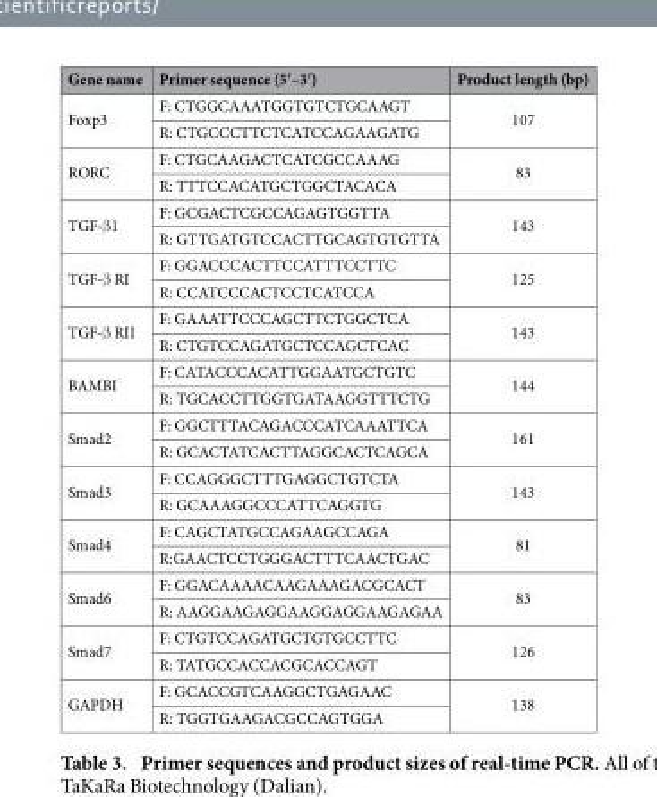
<table><thead><tr><td>Gene name</td><td>Primer sequence (5′ –3′ )</td><td>Product length (bp)</td></tr></thead><tbody><tr><td rowspan="2">Foxp3</td><td>F: CTGGCAAATGGTGTCTGCAAGT</td><td rowspan="2">107</td></tr><tr><td>R: CTGCCCTTCTCATCCAGAAGATG</td></tr><tr><td rowspan="2">RORC</td><td>F: CTGCAAGACTCATCGCCAAAG</td><td rowspan="2">83</td></tr><tr><td>R: TTTCCACATGCTGGCTACACA</td></tr><tr><td rowspan="2">TGF-β 1</td><td>F: GCGACTCGCCAGAGTGGTTA</td><td rowspan="2">143</td></tr><tr><td>R: GTTGATGTCCACTTGCAGTGTGTTA</td></tr><tr><td rowspan="2">TGF-β RI</td><td>F: GGACCCACTTCCATTTCCTTC</td><td rowspan="2">125</td></tr><tr><td>R: CCATCCCACTCCTCATCCA</td></tr><tr><td rowspan="2">TGF-β RII</td><td>F: GAAATTCCCAGCTTCTGGCTCA</td><td rowspan="2">143</td></tr><tr><td>R: CTGTCCAGATGCTCCAGCTCAC</td></tr><tr><td rowspan="2">BAMBI</td><td>F: CATACCCACATTGGAATGCTGTC</td><td rowspan="2">144</td></tr><tr><td>R: TGCACCTTGGTGATAAGGTTTCTG</td></tr><tr><td rowspan="2">Smad2</td><td>F: GGCTTTACAGACCCATCAAATTCA</td><td rowspan="2">161</td></tr><tr><td>R: GCACTATCACTTAGGCACTCAGCA</td></tr><tr><td rowspan="2">Smad3</td><td>F: CCAGGGCTTTGAGGCTGTCTA</td><td rowspan="2">143</td></tr><tr><td>R: GCAAAGGCCCATTCAGGTG</td></tr><tr><td rowspan="2">Smad4</td><td>F: CAGCTATGCCAGAAGCCAGA</td><td rowspan="2">81</td></tr><tr><td>R:GAACTCCTGGGACTTTCAACTGAC</td></tr><tr><td rowspan="2">Smad6</td><td>F: GGACAAAACAAGAAAGACGCACT</td><td rowspan="2">83</td></tr><tr><td>R: AAGGAAGAGGAAGGAGGAAGAGAA</td></tr><tr><td rowspan="2">Smad7</td><td>F: CTGTCCAGATGCTGTGCCTTC</td><td rowspan="2">126</td></tr><tr><td>R: TATGCCACCACGCACCAGT</td></tr><tr><td rowspan="2">GAPDH</td><td>F: GCACCGTCAAGGCTGAGAAC</td><td rowspan="2">138</td></tr><tr><td>R: TGGTGAAGACGCCAGTGGA</td></tr></tbody></table>